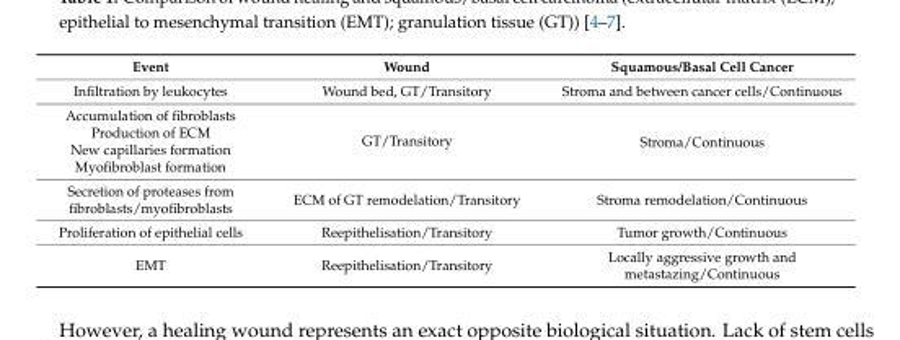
<table><thead><tr><td>Event</td><td>Wound</td><td>Squamous/Basal Cell Cancer</td></tr></thead><tbody><tr><td>Infiltration by leukocytes</td><td>Wound bed, GT/Transitory</td><td>Stroma and between cancer cells/Continuous</td></tr><tr><td>Accumulation of fibroblasts</td><td rowspan="4">GT/Transitory</td><td rowspan="4">Stroma/Continuous</td></tr><tr><td>Production of ECM</td></tr><tr><td>New capillaries formation</td></tr><tr><td>Myofibroblast formation</td></tr><tr><td>Secretion of proteases from fibroblasts/myofibroblasts</td><td>ECM of GT remodelation/Transitory</td><td>Stroma remodelation/Continuous</td></tr><tr><td>Proliferation of epithelial cells</td><td>Reepithelisation/Transitory</td><td>Tumor growth/Continuous</td></tr><tr><td>EMT</td><td>Reepithelisation/Transitory</td><td>Locally aggressive growth and metastazing/Continuous</td></tr></tbody></table>